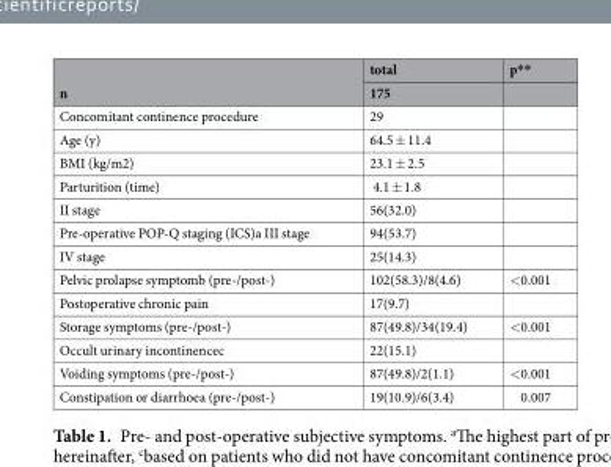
<table><thead><tr><td rowspan="2">n</td><td rowspan="2">total 175</td><td rowspan="2">p**</td></tr><tr></tr></thead><tbody><tr><td>Concomitant continence procedure</td><td>29</td><td></td></tr><tr><td>Age (y)</td><td>64.5 ± 11.4</td><td></td></tr><tr><td>BMI (kg/m2)</td><td>23.1 ± 2.5</td><td></td></tr><tr><td>Parturition (time)</td><td>4.1 ± 1.8</td><td></td></tr><tr><td>II stage</td><td>56(32.0)</td><td></td></tr><tr><td>Pre-operative POP-Q staging (ICS)a III stage</td><td>94(53.7)</td><td></td></tr><tr><td>IV stage</td><td>25(14.3)</td><td></td></tr><tr><td>Pelvic prolapse symptomb (pre-/post-)</td><td>102(58.3)/8(4.6)</td><td>&lt;0.001</td></tr><tr><td>Postoperative chronic pain</td><td>17(9.7)</td><td></td></tr><tr><td>Storage symptoms (pre-/post-)</td><td>87(49.8)/34(19.4)</td><td>&lt;0.001</td></tr><tr><td>Occult urinary incontinencec</td><td>22(15.1)</td><td></td></tr><tr><td>Voiding symptoms (pre-/post-)</td><td>87(49.8)/2(1.1)</td><td>&lt;0.001</td></tr><tr><td>Constipation or diarrhoea (pre-/post-)</td><td>19(10.9)/6(3.4)</td><td>0.007</td></tr></tbody></table>